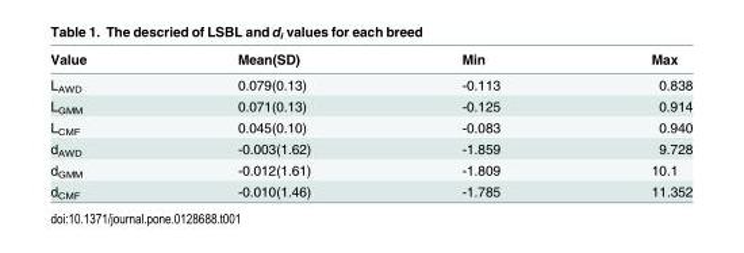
<table><thead><tr><td>Value</td><td>Mean(SD)</td><td>Min</td><td>Max</td></tr></thead><tbody><tr><td>L<sub>AWD</sub></td><td>0.079(0.13)</td><td>-0.113</td><td>0.838</td></tr><tr><td>L<sub>GMM</sub></td><td>0.071(0.13)</td><td>-0.125</td><td>0.914</td></tr><tr><td>L<sub>CMF</sub></td><td>0.045(0.10)</td><td>-0.083</td><td>0.940</td></tr><tr><td>d<sub>AWD</sub></td><td>-0.003(1.62)</td><td>-1.859</td><td>9.728</td></tr><tr><td>d<sub>GMM</sub></td><td>-0.012(1.61)</td><td>-1.809</td><td>10.1</td></tr><tr><td>d<sub>CMF</sub></td><td>-0.010(1.46)</td><td>-1.785</td><td>11.352</td></tr></tbody></table>